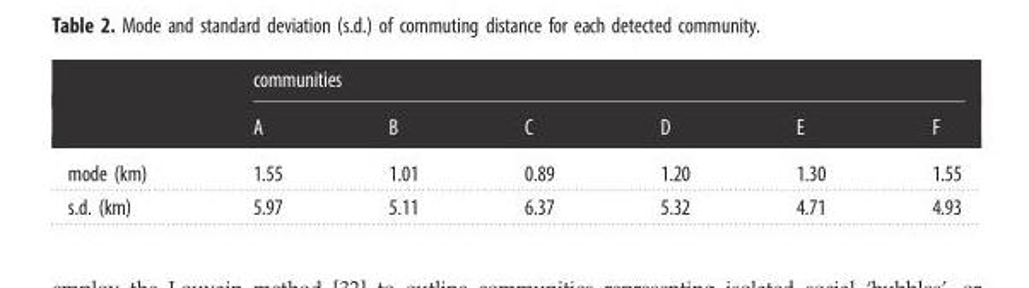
<table><thead><tr><td rowspan="2"></td><td colspan="6">communities</td></tr><tr><td>A</td><td>B</td><td>C</td><td>D</td><td>E</td><td>F</td></tr></thead><tbody><tr><td>mode (km)</td><td>1.55</td><td>1.01</td><td>0.89</td><td>1.20</td><td>1.30</td><td>1.55</td></tr><tr><td>s.d. (km)</td><td>5.97</td><td>5.11</td><td>6.37</td><td>5.32</td><td>4.71</td><td>4.93</td></tr></tbody></table>